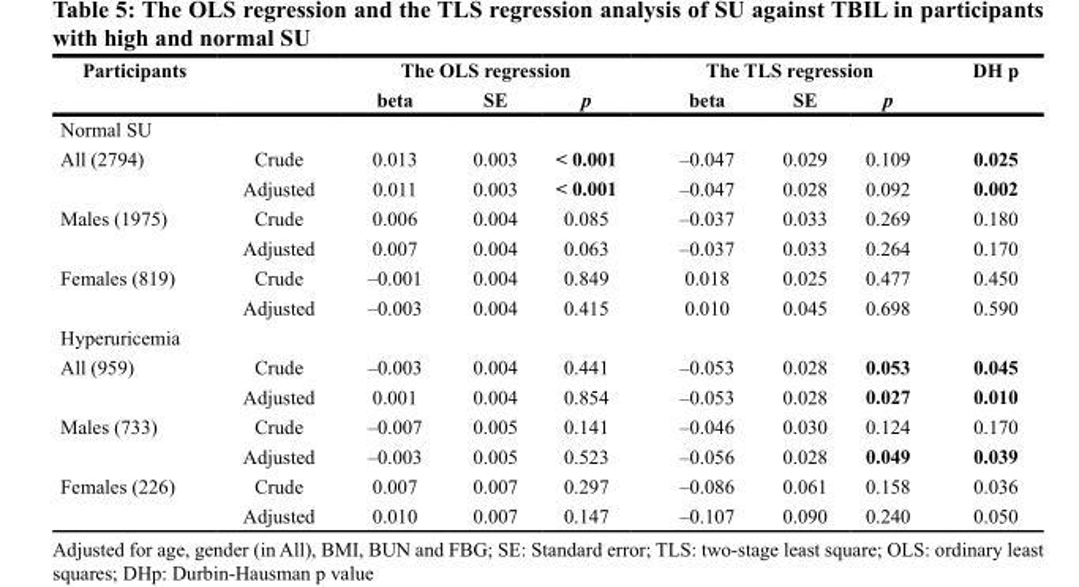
<table><thead><tr><td rowspan="2">Participants</td><td rowspan="2"></td><td colspan="3">The OLS regression</td><td colspan="3">The TLS regression</td><td rowspan="2">DH p</td></tr><tr><td>beta</td><td>SE</td><td>p</td><td>beta</td><td>SE</td><td>p</td></tr></thead><tbody><tr><td colspan="9">Normal SU</td></tr><tr><td rowspan="2">All (2794)</td><td>Crude</td><td>0.013</td><td>0.003</td><td>&lt; 0.001</td><td>–0.047</td><td>0.029</td><td>0.109</td><td>0.025</td></tr><tr><td>Adjusted</td><td>0.011</td><td>0.003</td><td>&lt; 0.001</td><td>–0.047</td><td>0.028</td><td>0.092</td><td>0.002</td></tr><tr><td rowspan="2">Males (1975)</td><td>Crude</td><td>0.006</td><td>0.004</td><td>0.085</td><td>–0.037</td><td>0.033</td><td>0.269</td><td>0.180</td></tr><tr><td>Adjusted</td><td>0.007</td><td>0.004</td><td>0.063</td><td>–0.037</td><td>0.033</td><td>0.264</td><td>0.170</td></tr><tr><td rowspan="2">Females (819)</td><td>Crude</td><td>–0.001</td><td>0.004</td><td>0.849</td><td>0.018</td><td>0.025</td><td>0.477</td><td>0.450</td></tr><tr><td>Adjusted</td><td>–0.003</td><td>0.004</td><td>0.415</td><td>0.010</td><td>0.045</td><td>0.698</td><td>0.590</td></tr><tr><td colspan="9">Hyperuricemia</td></tr><tr><td rowspan="2">All (959)</td><td>Crude</td><td>–0.003</td><td>0.004</td><td>0.441</td><td>–0.053</td><td>0.028</td><td>0.053</td><td>0.045</td></tr><tr><td>Adjusted</td><td>0.001</td><td>0.004</td><td>0.854</td><td>–0.053</td><td>0.028</td><td>0.027</td><td>0.010</td></tr><tr><td rowspan="2">Males (733)</td><td>Crude</td><td>–0.007</td><td>0.005</td><td>0.141</td><td>–0.046</td><td>0.030</td><td>0.124</td><td>0.170</td></tr><tr><td>Adjusted</td><td>–0.003</td><td>0.005</td><td>0.523</td><td>–0.056</td><td>0.028</td><td>0.049</td><td>0.039</td></tr><tr><td rowspan="2">Females (226)</td><td>Crude</td><td>0.007</td><td>0.007</td><td>0.297</td><td>–0.086</td><td>0.061</td><td>0.158</td><td>0.036</td></tr><tr><td>Adjusted</td><td>0.010</td><td>0.007</td><td>0.147</td><td>–0.107</td><td>0.090</td><td>0.240</td><td>0.050</td></tr></tbody></table>